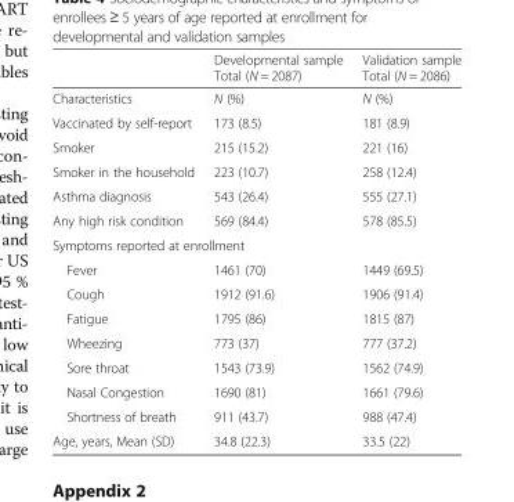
<table><thead><tr><td></td><td>Developmental sample Total (N = 2087)</td><td>Validation sample Total (N = 2086)</td></tr></thead><tbody><tr><td>Characteristics</td><td>N (%)</td><td>N (%)</td></tr><tr><td>Vaccinated by self-report</td><td>173 (8.5)</td><td>181 (8.9)</td></tr><tr><td>Smoker</td><td>215 (15.2)</td><td>221 (16)</td></tr><tr><td>Smoker in the household</td><td>223 (10.7)</td><td>258 (12.4)</td></tr><tr><td>Asthma diagnosis</td><td>543 (26.4)</td><td>555 (27.1)</td></tr><tr><td>Any high risk condition</td><td>569 (84.4)</td><td>578 (85.5)</td></tr><tr><td colspan="3">Symptoms reported at enrollment</td></tr><tr><td>Fever</td><td>1461 (70)</td><td>1449 (69.5)</td></tr><tr><td>Cough</td><td>1912 (91.6)</td><td>1906 (91.4)</td></tr><tr><td>Fatigue</td><td>1795 (86)</td><td>1815 (87)</td></tr><tr><td>Wheezing</td><td>773 (37)</td><td>777 (37.2)</td></tr><tr><td>Sore throat</td><td>1543 (73.9)</td><td>1562 (74.9)</td></tr><tr><td>Nasal Congestion</td><td>1690 (81)</td><td>1661 (79.6)</td></tr><tr><td>Shortness of breath</td><td>911 (43.7)</td><td>988 (47.4)</td></tr><tr><td>Age, years, Mean (SD)</td><td>34.8 (22.3)</td><td>33.5 (22)</td></tr></tbody></table>